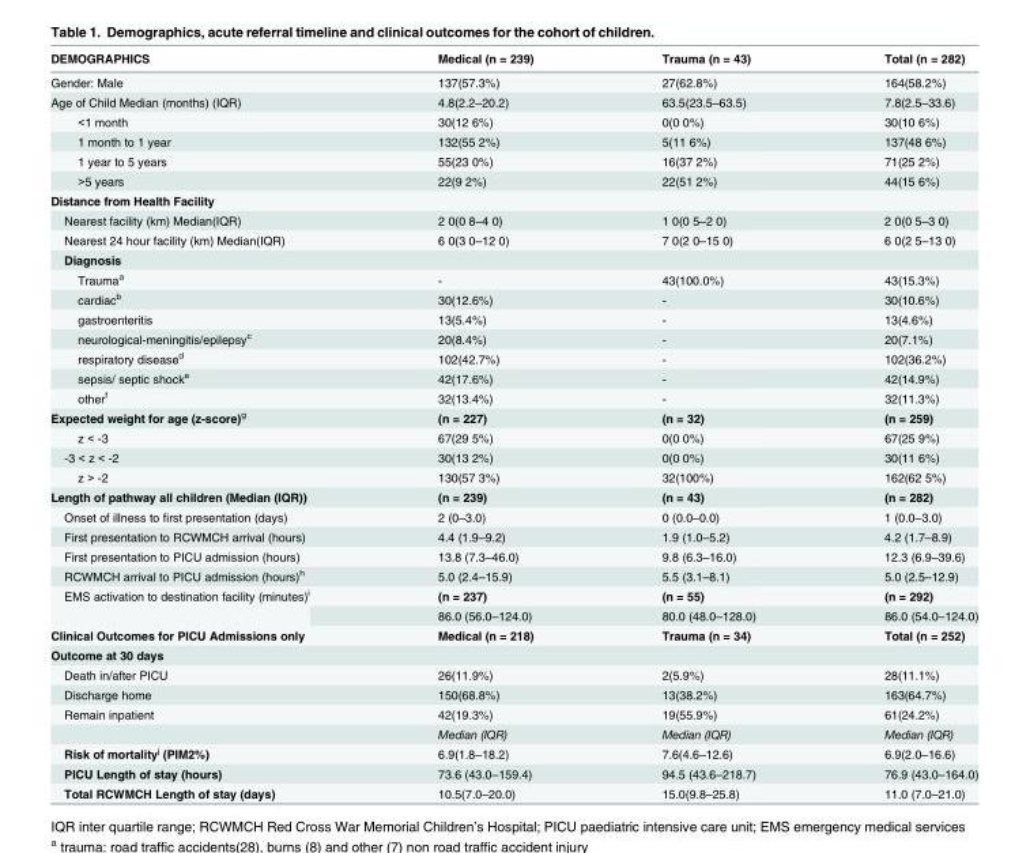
<table><thead><tr><td>DEMOGRAPHICS</td><td>Medical (n = 239)</td><td>Trauma (n = 43)</td><td>Total (n = 282)</td></tr></thead><tbody><tr><td>Gender: Male</td><td>137(57.3%)</td><td>27(62.8%)</td><td>164(58.2%)</td></tr><tr><td>Age of Child Median (months) (IQR)</td><td>4.8(2.2–20.2)</td><td>63.5(23.5–63.5)</td><td>7.8(2.5–33.6)</td></tr><tr><td>&lt;1 month</td><td>30(12 6%)</td><td>0(0 0%)</td><td>30(10 6%)</td></tr><tr><td>1 month to 1 year</td><td>132(55 2%)</td><td>5(11 6%)</td><td>137(48 6%)</td></tr><tr><td>1 year to 5 years</td><td>55(23 0%)</td><td>16(37 2%)</td><td>71(25 2%)</td></tr><tr><td>&gt;5 years</td><td>22(9 2%)</td><td>22(51 2%)</td><td>44(15 6%)</td></tr><tr><td colspan="4">Distance from Health Facility</td></tr><tr><td>Nearest facility (km) Median(IQR)</td><td>2 0(0 8–4 0)</td><td>1 0(0 5–2 0)</td><td>2 0(0 5–3 0)</td></tr><tr><td>Nearest 24 hour facility (km) Median(IQR)</td><td>6 0(3 0–12 0)</td><td>7 0(2 0–15 0)</td><td>6 0(2 5–13 0)</td></tr><tr><td colspan="4">Diagnosis</td></tr><tr><td>Trauma<sup>a</sup></td><td>-</td><td>43(100.0%)</td><td>43(15.3%)</td></tr><tr><td>cardiac<sup>b</sup></td><td>30(12.6%)</td><td>-</td><td>30(10.6%)</td></tr><tr><td>gastroenteritis</td><td>13(5.4%)</td><td>-</td><td>13(4.6%)</td></tr><tr><td>neurological-meningitis/epilepsy<sup>c</sup></td><td>20(8.4%)</td><td>-</td><td>20(7.1%)</td></tr><tr><td>respiratory disease<sup>d</sup></td><td>102(42.7%)</td><td>-</td><td>102(36.2%)</td></tr><tr><td>sepsis/ septic shock<sup>e</sup></td><td>42(17.6%)</td><td>-</td><td>42(14.9%)</td></tr><tr><td>other<sup>f</sup></td><td>32(13.4%)</td><td>-</td><td>32(11.3%)</td></tr><tr><td>Expected weight for age (z-score)<sup>g</sup></td><td>(n = 227)</td><td>(n = 32)</td><td>(n = 259)</td></tr><tr><td>z &lt; -3</td><td>67(29 5%)</td><td>0(0 0%)</td><td>67(25 9%)</td></tr><tr><td>-3 &lt; z &lt; -2</td><td>30(13 2%)</td><td>0(0 0%)</td><td>30(11 6%)</td></tr><tr><td>z &gt; -2</td><td>130(57 3%)</td><td>32(100%)</td><td>162(62 5%)</td></tr><tr><td>Length of pathway all children (Median (IQR))</td><td>(n = 239)</td><td>(n = 43)</td><td>(n = 282)</td></tr><tr><td>Onset of illness to first presentation (days)</td><td>2 (0–3.0)</td><td>0 (0.0–0.0)</td><td>1 (0.0–3.0)</td></tr><tr><td>First presentation to RCWMCH arrival (hours)</td><td>4.4 (1.9–9.2)</td><td>1.9 (1.0–5.2)</td><td>4.2 (1.7–8.9)</td></tr><tr><td>First presentation to PICU admission (hours)</td><td>13.8 (7.3–46.0)</td><td>9.8 (6.3–16.0)</td><td>12.3 (6.9–39.6)</td></tr><tr><td>RCWMCH arrival to PICU admission (hours)<sup>h</sup></td><td>5.0 (2.4–15.9)</td><td>5.5 (3.1–8.1)</td><td>5.0 (2.5–12.9)</td></tr><tr><td rowspan="2">EMS activation to destination facility (minutes)<sup>i</sup></td><td>(n = 237)</td><td>(n = 55)</td><td>(n = 292)</td></tr><tr><td>86.0 (56.0–124.0)</td><td>80.0 (48.0–128.0)</td><td>86.0 (54.0–124.0)</td></tr><tr><td>Clinical Outcomes for PICU Admissions only</td><td>Medical (n = 218)</td><td>Trauma (n = 34)</td><td>Total (n = 252)</td></tr><tr><td colspan="4">Outcome at 30 days</td></tr><tr><td>Death in/after PICU</td><td>26(11.9%)</td><td>2(5.9%)</td><td>28(11.1%)</td></tr><tr><td>Discharge home</td><td>150(68.8%)</td><td>13(38.2%)</td><td>163(64.7%)</td></tr><tr><td rowspan="2">Remain inpatient</td><td>42(19.3%)</td><td>19(55.9%)</td><td>61(24.2%)</td></tr><tr><td>Median (IQR)</td><td>Median (IQR)</td><td>Median (IQR)</td></tr><tr><td>Risk of mortality<sup>j</sup> (PIM2%)</td><td>6.9(1.8–18.2)</td><td>7.6(4.6–12.6)</td><td>6.9(2.0–16.6)</td></tr><tr><td>PICU Length of stay (hours)</td><td>73.6 (43.0–159.4)</td><td>94.5 (43.6–218.7)</td><td>76.9 (43.0–164.0)</td></tr><tr><td>Total RCWMCH Length of stay (days)</td><td>10.5(7.0–20.0)</td><td>15.0(9.8–25.8)</td><td>11.0 (7.0–21.0)</td></tr></tbody></table>